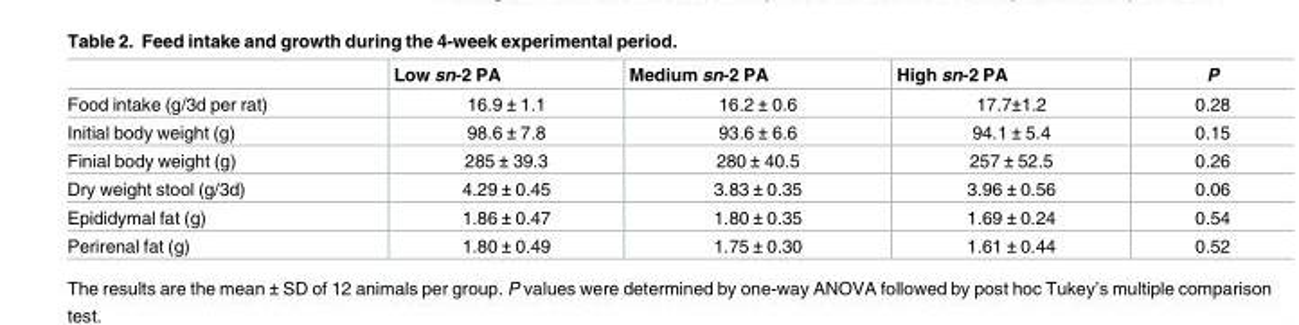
<table><thead><tr><td></td><td>Low sn-2 PA</td><td>Medium sn-2 PA</td><td>High sn-2 PA</td><td>P</td></tr></thead><tbody><tr><td>Food intake (g/3d per rat)</td><td>16.9 ± 1.1</td><td>16.2 ± 0.6</td><td>17.7±1.2</td><td>0.28</td></tr><tr><td>Initial body weight (g)</td><td>98.6 ± 7.8</td><td>93.6 ± 6.6</td><td>94.1 ± 5.4</td><td>0.15</td></tr><tr><td>Finial body weight (g)</td><td>285 ± 39.3</td><td>280 ± 40.5</td><td>257 ± 52.5</td><td>0.26</td></tr><tr><td>Dry weight stool (g/3d)</td><td>4.29 ± 0.45</td><td>3.83 ± 0.35</td><td>3.96 ± 0.56</td><td>0.06</td></tr><tr><td>Epididymal fat (g)</td><td>1.86 ± 0.47</td><td>1.80 ± 0.35</td><td>1.69 ± 0.24</td><td>0.54</td></tr><tr><td>Perirenal fat (g)</td><td>1.80 ± 0.49</td><td>1.75 ± 0.30</td><td>1.61 ± 0.44</td><td>0.52</td></tr></tbody></table>